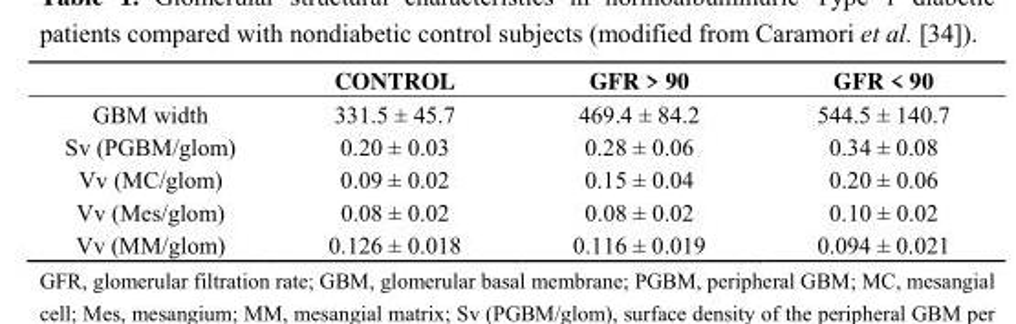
<table><thead><tr><td></td><td>CONTROL</td><td>GFR &gt; 90</td><td>GFR &lt; 90</td></tr></thead><tbody><tr><td>GBM width</td><td>331.5 ± 45.7</td><td>469.4 ± 84.2</td><td>544.5 ± 140.7</td></tr><tr><td>Sv (PGBM/glom)</td><td>0.20 ± 0.03</td><td>0.28 ± 0.06</td><td>0.34 ± 0.08</td></tr><tr><td>Vv (MC/glom)</td><td>0.09 ± 0.02</td><td>0.15 ± 0.04</td><td>0.20 ± 0.06</td></tr><tr><td>Vv (Mes/glom)</td><td>0.08 ± 0.02</td><td>0.08 ± 0.02</td><td>0.10 ± 0.02</td></tr><tr><td>Vv (MM/glom)</td><td>0.126 ± 0.018</td><td>0.116 ± 0.019</td><td>0.094 ± 0.021</td></tr></tbody></table>